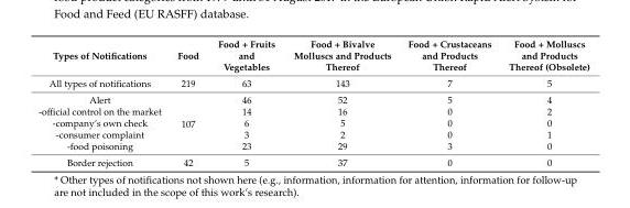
<table><thead><tr><td>Types of Notifications</td><td>Food</td><td>Food + Fruits and Vegetables</td><td>Food + Bivalve Molluscs and Products Thereof</td><td>Food + Crustaceans and Products Thereof</td><td>Food + Molluscs and Products Thereof (Obsolete)</td></tr></thead><tbody><tr><td>All types of notifications</td><td>219</td><td>63</td><td>143</td><td>7</td><td>5</td></tr><tr><td>Alert</td><td rowspan="5">107</td><td>46</td><td>52</td><td>5</td><td>4</td></tr><tr><td>-official control on the market</td><td>14</td><td>16</td><td>0</td><td>2</td></tr><tr><td>-company’s own check</td><td>6</td><td>5</td><td>0</td><td>0</td></tr><tr><td>-consumer complaint</td><td>3</td><td>2</td><td>0</td><td>1</td></tr><tr><td>-food poisoning</td><td>23</td><td>29</td><td>3</td><td>0</td></tr><tr><td>Border rejection</td><td>42</td><td>5</td><td>37</td><td>0</td><td>0</td></tr></tbody></table>